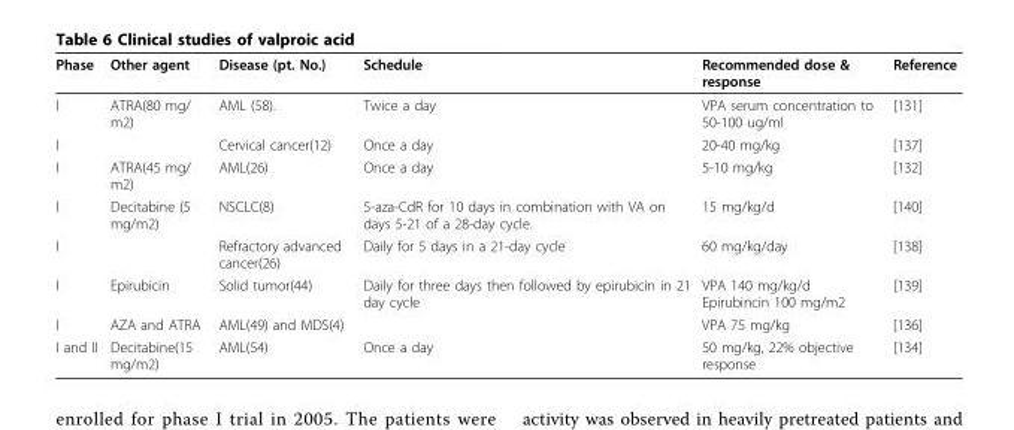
<table><thead><tr><td>Phase</td><td>Other agent</td><td>Disease (pt. No.)</td><td>Schedule</td><td>Recommended dose &amp; response</td><td>Reference</td></tr></thead><tbody><tr><td>I</td><td>ATRA(80 mg/ m2)</td><td>AML (58).</td><td>Twice a day</td><td>VPA serum concentration to 50-100 ug/ml</td><td>[131]</td></tr><tr><td>I</td><td></td><td>Cervical cancer(12)</td><td>Once a day</td><td>20-40 mg/kg</td><td>[137]</td></tr><tr><td>I</td><td>ATRA(45 mg/ m2)</td><td>AML(26)</td><td>Once a day</td><td>5-10 mg/kg</td><td>[132]</td></tr><tr><td>I</td><td>Decitabine (5 mg/m2)</td><td>NSCLC(8)</td><td>5-aza-CdR for 10 days in combination with VA on days 5-21 of a 28-day cycle.</td><td>15 mg/kg/d</td><td>[140]</td></tr><tr><td>I</td><td></td><td>Refractory advanced cancer(26)</td><td>Daily for 5 days in a 21-day cycle</td><td>60 mg/kg/day</td><td>[138]</td></tr><tr><td>I</td><td>Epirubicin</td><td>Solid tumor(44)</td><td>Daily for three days then followed by epirubicin in 21 day cycle</td><td>VPA 140 mg/kg/d Epirubincin 100 mg/m2</td><td>[139]</td></tr><tr><td>I</td><td>AZA and ATRA</td><td>AML(49) and MDS(4)</td><td></td><td>VPA 75 mg/kg</td><td>[136]</td></tr><tr><td>I and II</td><td>Decitabine(15 mg/m2)</td><td>AML(54)</td><td>Once a day</td><td>50 mg/kg, 22% objective response</td><td>[134]</td></tr></tbody></table>